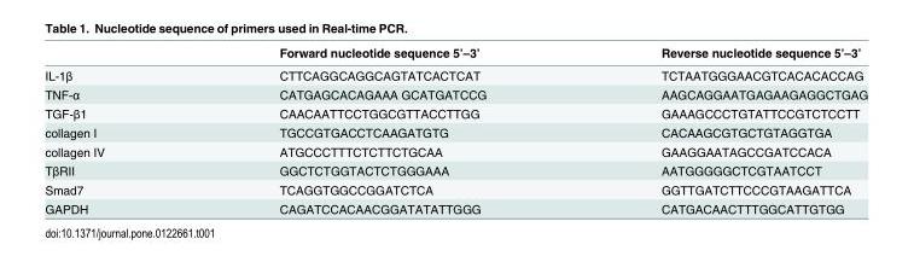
<table><thead><tr><td></td><td>Forward nucleotide sequence 5’–3’</td><td>Reverse nucleotide sequence 5’–3’</td></tr></thead><tbody><tr><td>IL-1β</td><td>CTTCAGGCAGGCAGTATCACTCAT</td><td>TCTAATGGGAACGTCACACACCAG</td></tr><tr><td>TNF-α</td><td>CATGAGCACAGAAA GCATGATCCG</td><td>AAGCAGGAATGAGAAGAGGCTGAG</td></tr><tr><td>TGF-β1</td><td>CAACAATTCCTGGCGTTACCTTGG</td><td>GAAAGCCCTGTATTCCGTCTCCTT</td></tr><tr><td>collagen I</td><td>TGCCGTGACCTCAAGATGTG</td><td>CACAAGCGTGCTGTAGGTGA</td></tr><tr><td>collagen IV</td><td>ATGCCCTTTCTCTTCTGCAA</td><td>GAAGGAATAGCCGATCCACA</td></tr><tr><td>TβRII</td><td>GGCTCTGGTACTCTGGGAAA</td><td>AATGGGGGCTCGTAATCCT</td></tr><tr><td>Smad7</td><td>TCAGGTGGCCGGATCTCA</td><td>GGTTGATCTTCCCGTAAGATTCA</td></tr><tr><td>GAPDH</td><td>CAGATCCACAACGGATATATTGGG</td><td>CATGACAACTTTGGCATTGTGG</td></tr></tbody></table>